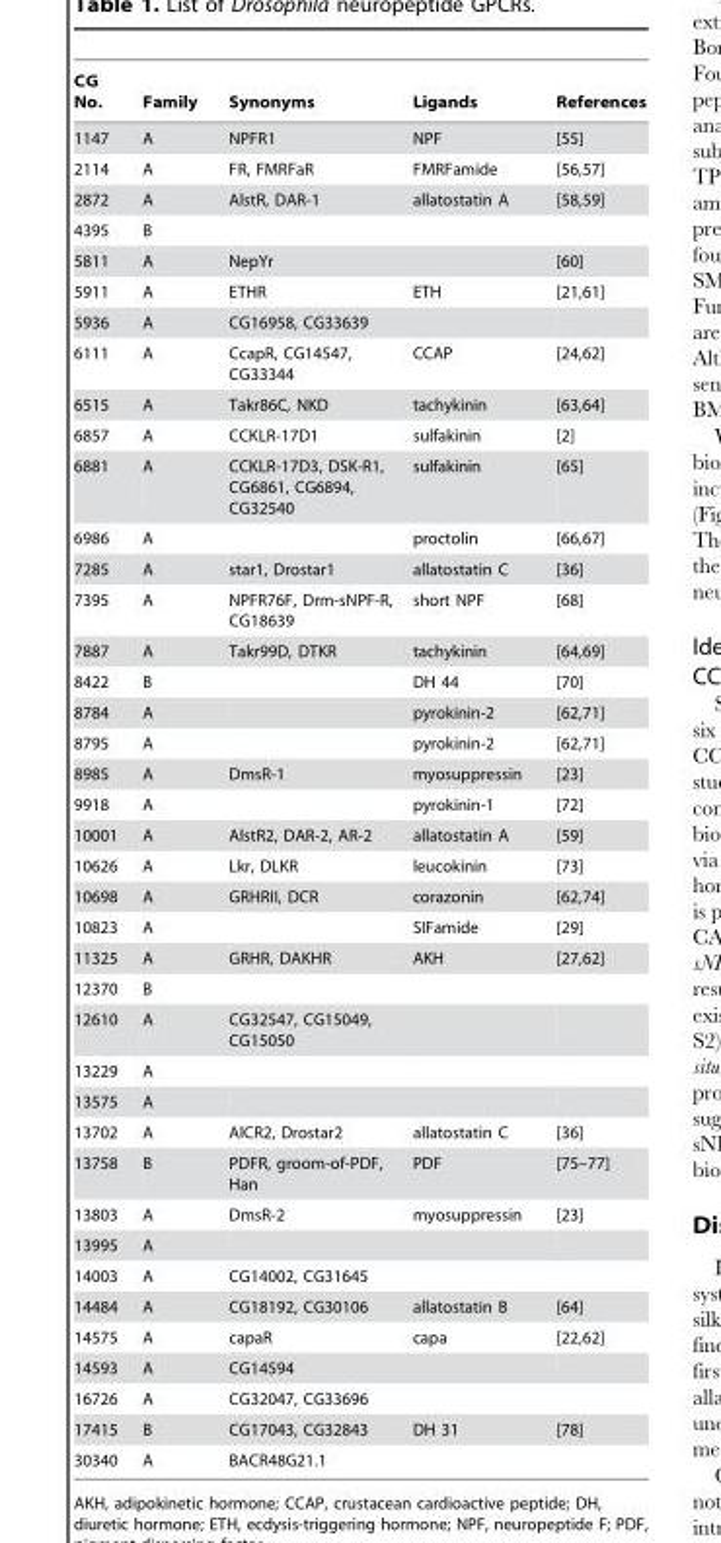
<table><thead><tr><td>CG No.</td><td>Family</td><td>Synonyms</td><td>Ligands</td><td>References</td></tr></thead><tbody><tr><td>1147</td><td>A</td><td>NPFR1</td><td>NPF</td><td>[55]</td></tr><tr><td>2114</td><td>A</td><td>FR, FMRFaR</td><td>FMRFamide</td><td>[56,57]</td></tr><tr><td>2872</td><td>A</td><td>AlstR, DAR-1</td><td>allatostatin A</td><td>[58,59]</td></tr><tr><td>4395</td><td>B</td><td></td><td></td><td></td></tr><tr><td>5811</td><td>A</td><td>NepYr</td><td></td><td>[60]</td></tr><tr><td>5911</td><td>A</td><td>ETHR</td><td>ETH</td><td>[21,61]</td></tr><tr><td>5936</td><td>A</td><td>CG16958, CG33639</td><td></td><td></td></tr><tr><td>6111</td><td>A</td><td>CcapR, CG14547, CG33344</td><td>CCAP</td><td>[24,62]</td></tr><tr><td>6515</td><td>A</td><td>Takr86C, NKD</td><td>tachykinin</td><td>[63,64]</td></tr><tr><td>6857</td><td>A</td><td>CCKLR-17D1</td><td>sulfakinin</td><td>[2]</td></tr><tr><td>6881</td><td>A</td><td>CCKLR-17D3, DSK-R1, CG6861, CG6894, CG32540</td><td>sulfakinin</td><td>[65]</td></tr><tr><td>6986</td><td>A</td><td></td><td>proctolin</td><td>[66,67]</td></tr><tr><td>7285</td><td>A</td><td>star1, Drostar1</td><td>allatostatin C</td><td>[36]</td></tr><tr><td>7395</td><td>A</td><td>NPFR76F, Drm-sNPF-R, CG18639</td><td>short NPF</td><td>[68]</td></tr><tr><td>7887</td><td>A</td><td>Takr99D, DTKR</td><td>tachykinin</td><td>[64,69]</td></tr><tr><td>8422</td><td>B</td><td></td><td>DH 44</td><td>[70]</td></tr><tr><td>8784</td><td>A</td><td></td><td>pyrokinin-2</td><td>[62,71]</td></tr><tr><td>8795</td><td>A</td><td></td><td>pyrokinin-2</td><td>[62,71]</td></tr><tr><td>8985</td><td>A</td><td>DmsR-1</td><td>myosuppressin</td><td>[23]</td></tr><tr><td>9918</td><td>A</td><td></td><td>pyrokinin-1</td><td>[72]</td></tr><tr><td>10001</td><td>A</td><td>AlstR2, DAR-2, AR-2</td><td>allatostatin A</td><td>[59]</td></tr><tr><td>10626</td><td>A</td><td>Lkr, DLKR</td><td>leucokinin</td><td>[73]</td></tr><tr><td>10698</td><td>A</td><td>GRHRII, DCR</td><td>corazonin</td><td>[62,74]</td></tr><tr><td>10823</td><td>A</td><td></td><td>SIFamide</td><td>[29]</td></tr><tr><td>11325</td><td>A</td><td>GRHR, DAKHR</td><td>AKH</td><td>[27,62]</td></tr><tr><td>12370</td><td>B</td><td></td><td></td><td></td></tr><tr><td>12610</td><td>A</td><td>CG32547, CG15049, CG15050</td><td></td><td></td></tr><tr><td>13229</td><td>A</td><td></td><td></td><td></td></tr><tr><td>13575</td><td>A</td><td></td><td></td><td></td></tr><tr><td>13702</td><td>A</td><td>AlCR2, Drostar2</td><td>allatostatin C</td><td>[36]</td></tr><tr><td>13758</td><td>B</td><td>PDFR, groom-of-PDF, Han</td><td>PDF</td><td>[75–77]</td></tr><tr><td>13803</td><td>A</td><td>DmsR-2</td><td>myosuppressin</td><td>[23]</td></tr><tr><td>13995</td><td>A</td><td></td><td></td><td></td></tr><tr><td>14003</td><td>A</td><td>CG14002, CG31645</td><td></td><td></td></tr><tr><td>14484</td><td>A</td><td>CG18192, CG30106</td><td>allatostatin B</td><td>[64]</td></tr><tr><td>14575</td><td>A</td><td>capaR</td><td>capa</td><td>[22,62]</td></tr><tr><td>14593</td><td>A</td><td>CG14594</td><td></td><td></td></tr><tr><td>16726</td><td>A</td><td>CG32047, CG33696</td><td></td><td></td></tr><tr><td>17415</td><td>B</td><td>CG17043, CG32843</td><td>DH 31</td><td>[78]</td></tr><tr><td>30340</td><td>A</td><td>BACR48G21.1</td><td></td><td></td></tr></tbody></table>